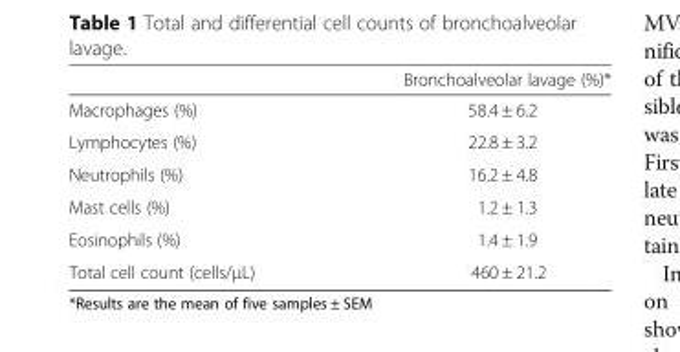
<table><thead><tr><td></td><td>Bronchoalveolar lavage (%)*</td></tr></thead><tbody><tr><td>Macrophages (%)</td><td>58.4 ± 6.2</td></tr><tr><td>Lymphocytes (%)</td><td>22.8 ± 3.2</td></tr><tr><td>Neutrophils (%)</td><td>16.2 ± 4.8</td></tr><tr><td>Mast cells (%)</td><td>1.2 ± 1.3</td></tr><tr><td>Eosinophils (%)</td><td>1.4 ± 1.9</td></tr><tr><td>Total cell count (cells/μL)</td><td>460 ± 21.2</td></tr></tbody></table>